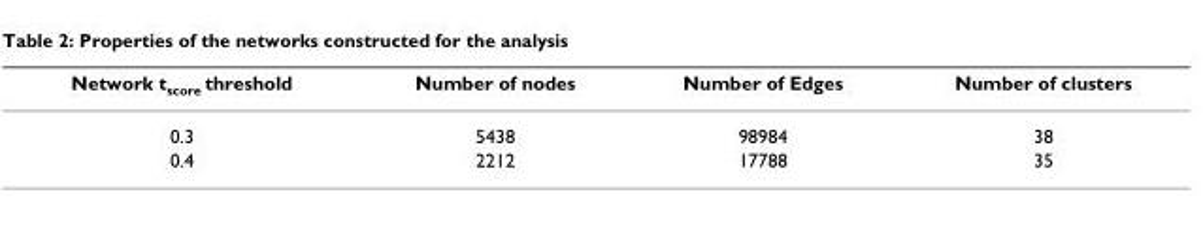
<table><thead><tr><td>Network t<sub>score</sub> threshold</td><td>Number of nodes</td><td>Number of Edges</td><td>Number of clusters</td></tr></thead><tbody><tr><td>0.3</td><td>5438</td><td>98984</td><td>38</td></tr><tr><td>0.4</td><td>2212</td><td>17788</td><td>35</td></tr></tbody></table>